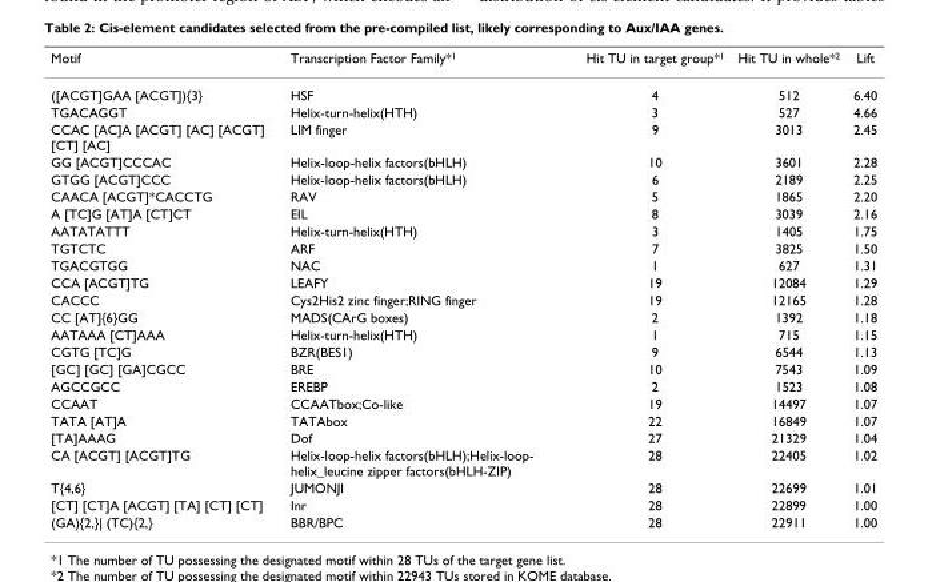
<table><thead><tr><td>Motif</td><td>Transcription Factor Family*<sup>1</sup></td><td>Hit TU in target group*<sup>1</sup></td><td>Hit TU in whole*<sup>2</sup></td><td>Lift</td></tr></thead><tbody><tr><td>([ACGT]GAA [ACGT]){3}</td><td>HSF</td><td>4</td><td>512</td><td>6.40</td></tr><tr><td>TGACAGGT</td><td>Helix-turn-helix(HTH)</td><td>3</td><td>527</td><td>4.66</td></tr><tr><td>CCAC [AC]A [ACGT] [AC] [ACGT] [CT] [AC]</td><td>LIM finger</td><td>9</td><td>3013</td><td>2.45</td></tr><tr><td>GG [ACGT]CCCAC</td><td>Helix-loop-helix factors(bHLH)</td><td>10</td><td>3601</td><td>2.28</td></tr><tr><td>GTGG [ACGT]CCC</td><td>Helix-loop-helix factors(bHLH)</td><td>6</td><td>2189</td><td>2.25</td></tr><tr><td>CAACA [ACGT]*CACCTG</td><td>RAV</td><td>5</td><td>1865</td><td>2.20</td></tr><tr><td>A [TC]G [AT]A [CT]CT</td><td>EIL</td><td>8</td><td>3039</td><td>2.16</td></tr><tr><td>AATATATTT</td><td>Helix-turn-helix(HTH)</td><td>3</td><td>1405</td><td>1.75</td></tr><tr><td>TGTCTC</td><td>ARF</td><td>7</td><td>3825</td><td>1.50</td></tr><tr><td>TGACGTGG</td><td>NAC</td><td>1</td><td>627</td><td>1.31</td></tr><tr><td>CCA [ACGT]TG</td><td>LEAFY</td><td>19</td><td>12084</td><td>1.29</td></tr><tr><td>CACCC</td><td>Cys2His2 zinc finger;RING finger</td><td>19</td><td>12165</td><td>1.28</td></tr><tr><td>CC [AT]{6}GG</td><td>MADS(CArG boxes)</td><td>2</td><td>1392</td><td>1.18</td></tr><tr><td>AATAAA [CT]AAA</td><td>Helix-turn-helix(HTH)</td><td>1</td><td>715</td><td>1.15</td></tr><tr><td>CGTG [TC]G</td><td>BZR(BES1)</td><td>9</td><td>6544</td><td>1.13</td></tr><tr><td>[GC] [GC] [GA]CGCC</td><td>BRE</td><td>10</td><td>7543</td><td>1.09</td></tr><tr><td>AGCCGCC</td><td>EREBP</td><td>2</td><td>1523</td><td>1.08</td></tr><tr><td>CCAAT</td><td>CCAATbox;Co-like</td><td>19</td><td>14497</td><td>1.07</td></tr><tr><td>TATA [AT]A</td><td>TATAbox</td><td>22</td><td>16849</td><td>1.07</td></tr><tr><td>[TA]AAAG</td><td>Dof</td><td>27</td><td>21329</td><td>1.04</td></tr><tr><td>CA [ACGT] [ACGT]TG</td><td>Helix-loop-helix factors(bHLH);Helix-loop- helix_leucine zipper factors(bHLH-ZIP)</td><td>28</td><td>22405</td><td>1.02</td></tr><tr><td>T{4,6}</td><td>JUMONJI</td><td>28</td><td>22699</td><td>1.01</td></tr><tr><td>[CT] [CT]A [ACGT] [TA] [CT] [CT]</td><td>Inr</td><td>28</td><td>22899</td><td>1.00</td></tr><tr><td>(GA){2,}| (TC){2,}</td><td>BBR/BPC</td><td>28</td><td>22911</td><td>1.00</td></tr></tbody></table>